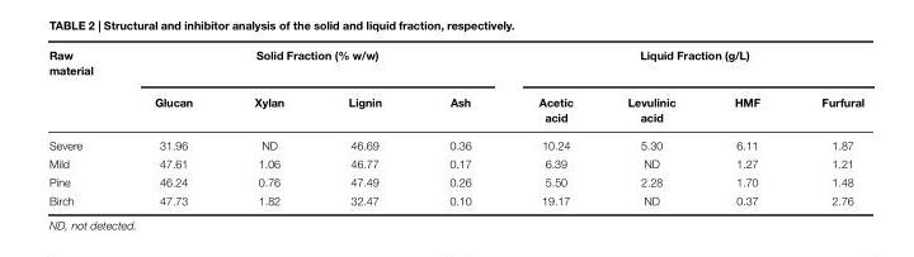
<table><thead><tr><td rowspan="2">Raw material</td><td colspan="4">Solid Fraction (% w/w)</td><td colspan="4">Liquid Fraction (g/L)</td></tr><tr><td>Glucan</td><td>Xylan</td><td>Lignin</td><td>Ash</td><td>Acetic acid</td><td>Levulinic acid</td><td>HMF</td><td>Furfural</td></tr></thead><tbody><tr><td>Severe</td><td>31.96</td><td>ND</td><td>46.69</td><td>0.36</td><td>10.24</td><td>5.30</td><td>6.11</td><td>1.87</td></tr><tr><td>Mild</td><td>47.61</td><td>1.06</td><td>46.77</td><td>0.17</td><td>6.39</td><td>ND</td><td>1.27</td><td>1.21</td></tr><tr><td>Pine</td><td>46.24</td><td>0.76</td><td>47.49</td><td>0.26</td><td>5.50</td><td>2.28</td><td>1.70</td><td>1.48</td></tr><tr><td>Birch</td><td>47.73</td><td>1.82</td><td>32.47</td><td>0.10</td><td>19.17</td><td>ND</td><td>0.37</td><td>2.76</td></tr></tbody></table>